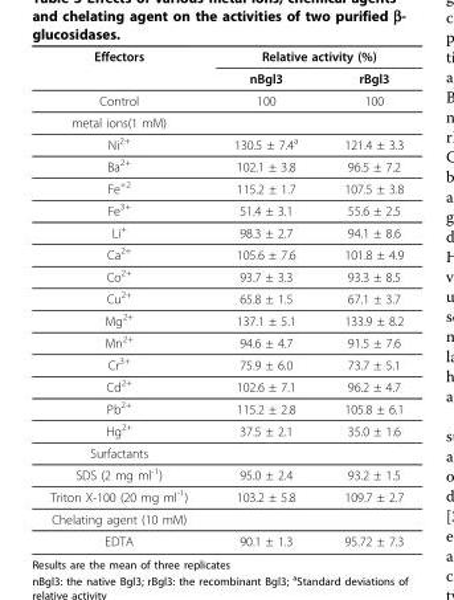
<table><thead><tr><td rowspan="2">Effectors</td><td colspan="2">Relative activity (%)</td></tr><tr><td>nBgl3</td><td>rBgl3</td></tr></thead><tbody><tr><td>Control</td><td>100</td><td>100</td></tr><tr><td colspan="3">metal ions(1 mM)</td></tr><tr><td>Ni<sup>2+</sup></td><td>130.5 ± 7.4<sup>a</sup></td><td>121.4 ± 3.3</td></tr><tr><td>Ba<sup>2+</sup></td><td>102.1 ± 3.8</td><td>96.5 ± 7.2</td></tr><tr><td>Fe<sup>+2</sup></td><td>115.2 ± 1.7</td><td>107.5 ± 3.8</td></tr><tr><td>Fe<sup>3+</sup></td><td>51.4 ± 3.1</td><td>55.6 ± 2.5</td></tr><tr><td>Li<sup>+</sup></td><td>98.3 ± 2.7</td><td>94.1 ± 8.6</td></tr><tr><td>Ca<sup>2+</sup></td><td>105.6 ± 7.6</td><td>101.8 ± 4.9</td></tr><tr><td>Co<sup>2+</sup></td><td>93.7 ± 3.3</td><td>93.3 ± 8.5</td></tr><tr><td>Cu<sup>2+</sup></td><td>65.8 ± 1.5</td><td>67.1 ± 3.7</td></tr><tr><td>Mg<sup>2+</sup></td><td>137.1 ± 5.1</td><td>133.9 ± 8.2</td></tr><tr><td>Mn<sup>2+</sup></td><td>94.6 ± 4.7</td><td>91.5 ± 7.6</td></tr><tr><td>Cr<sup>3+</sup></td><td>75.9 ± 6.0</td><td>73.7 ± 5.1</td></tr><tr><td>Cd<sup>2+</sup></td><td>102.6 ± 7.1</td><td>96.2 ± 4.7</td></tr><tr><td>Pb<sup>2+</sup></td><td>115.2 ± 2.8</td><td>105.8 ± 6.1</td></tr><tr><td>Hg<sup>2+</sup></td><td>37.5 ± 2.1</td><td>35.0 ± 1.6</td></tr><tr><td colspan="3">Surfactants</td></tr><tr><td>SDS (2 mg ml<sup>-1</sup>)</td><td>95.0 ± 2.4</td><td>93.2 ± 1.5</td></tr><tr><td>Triton X-100 (20 mg ml<sup>-1</sup>)</td><td>103.2 ± 5.8</td><td>109.7 ± 2.7</td></tr><tr><td colspan="3">Chelating agent (10 mM)</td></tr><tr><td>EDTA</td><td>90.1 ± 1.3</td><td>95.72 ± 7.3</td></tr></tbody></table>